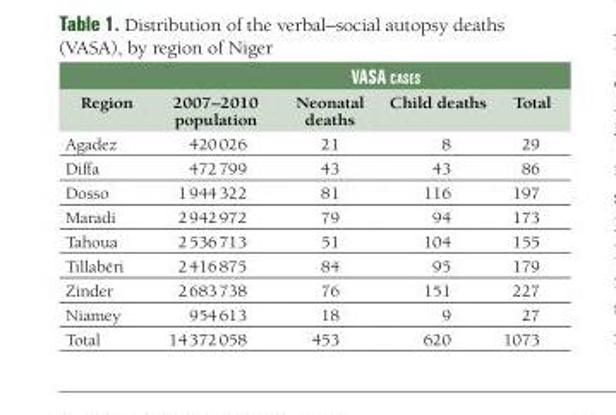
<table><thead><tr><td rowspan="2">Region</td><td rowspan="2">2007–2010 population</td><td colspan="2">VASA cASeS</td><td rowspan="2">Total</td></tr><tr><td>Neonatal deaths</td><td>Child deaths</td></tr></thead><tbody><tr><td>Agadez</td><td>420 026</td><td>21</td><td>8</td><td>29</td></tr><tr><td>Diffa</td><td>472 799</td><td>43</td><td>43</td><td>86</td></tr><tr><td>Dosso</td><td>1 944 322</td><td>81</td><td>116</td><td>197</td></tr><tr><td>Maradi</td><td>2 942 972</td><td>79</td><td>94</td><td>173</td></tr><tr><td>Tahoua</td><td>2 536 713</td><td>51</td><td>104</td><td>155</td></tr><tr><td>Tillabéri</td><td>2 416 875</td><td>84</td><td>95</td><td>179</td></tr><tr><td>Zinder</td><td>2 683 738</td><td>76</td><td>151</td><td>227</td></tr><tr><td>Niamey</td><td>954 613</td><td>18</td><td>9</td><td>27</td></tr><tr><td>Total</td><td>14 372 058</td><td>453</td><td>620</td><td>1073</td></tr></tbody></table>